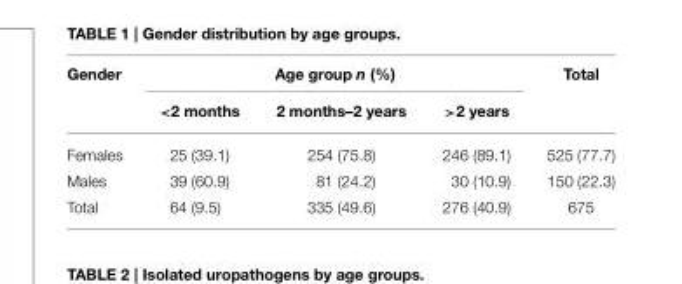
<table><thead><tr><td rowspan="2">Gender</td><td colspan="3">Age group n (%)</td><td rowspan="2">Total</td></tr><tr><td>&lt;2 months</td><td>2 months–2 years</td><td>&gt;2 years</td></tr></thead><tbody><tr><td>Females</td><td>25 (39.1)</td><td>254 (75.8)</td><td>246 (89.1)</td><td>525 (77.7)</td></tr><tr><td>Males</td><td>39 (60.9)</td><td>81 (24.2)</td><td>30 (10.9)</td><td>150 (22.3)</td></tr><tr><td>Total</td><td>64 (9.5)</td><td>335 (49.6)</td><td>276 (40.9)</td><td>675</td></tr></tbody></table>